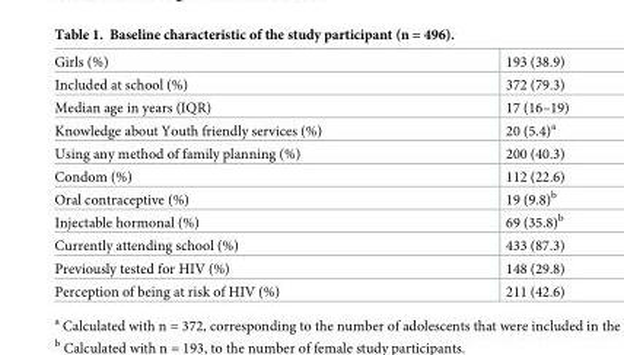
<table><tbody><tr><td>Girls (%)</td><td>193 (38.9)</td></tr><tr><td>Included at school (%)</td><td>372 (79.3)</td></tr><tr><td>Median age in years (IQR)</td><td>17 (16–19)</td></tr><tr><td>Knowledge about Youth friendly services (%)</td><td>20 (5.4)<sup>a</sup></td></tr><tr><td>Using any method of family planning (%)</td><td>200 (40.3)</td></tr><tr><td>Condom (%)</td><td>112 (22.6)</td></tr><tr><td>Oral contraceptive (%)</td><td>19 (9.8)<sup>b</sup></td></tr><tr><td>Injectable hormonal (%)</td><td>69 (35.8)<sup>b</sup></td></tr><tr><td>Currently attending school (%)</td><td>433 (87.3)</td></tr><tr><td>Previously tested for HIV (%)</td><td>148 (29.8)</td></tr><tr><td>Perception of being at risk of HIV (%)</td><td>211 (42.6)</td></tr></tbody></table>